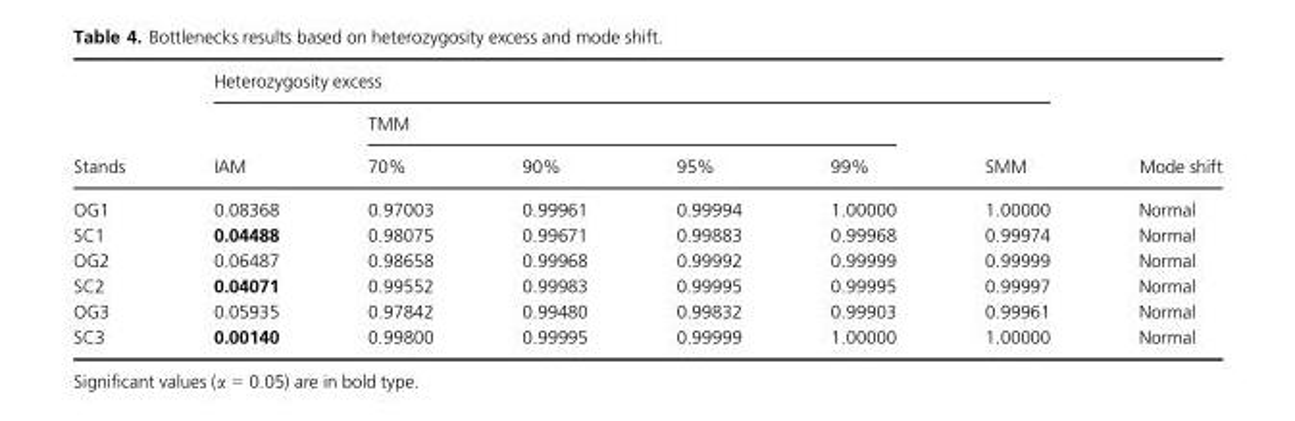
<table><thead><tr><td rowspan="3">Stands</td><td colspan="6">Heterozygosity excess</td><td rowspan="3">Mode shift</td></tr><tr><td rowspan="2">IAM</td><td colspan="4">TMM</td><td rowspan="2">SMM</td></tr><tr><td>70%</td><td>90%</td><td>95%</td><td>99%</td></tr></thead><tbody><tr><td>OG1</td><td>0.08368</td><td>0.97003</td><td>0.99961</td><td>0.99994</td><td>1.00000</td><td>1.00000</td><td>Normal</td></tr><tr><td>SC1</td><td>0.04488</td><td>0.98075</td><td>0.99671</td><td>0.99883</td><td>0.99968</td><td>0.99974</td><td>Normal</td></tr><tr><td>OG2</td><td>0.06487</td><td>0.98658</td><td>0.99968</td><td>0.99992</td><td>0.99999</td><td>0.99999</td><td>Normal</td></tr><tr><td>SC2</td><td>0.04071</td><td>0.99552</td><td>0.99983</td><td>0.99995</td><td>0.99995</td><td>0.99997</td><td>Normal</td></tr><tr><td>OG3</td><td>0.05935</td><td>0.97842</td><td>0.99480</td><td>0.99832</td><td>0.99903</td><td>0.99961</td><td>Normal</td></tr><tr><td>SC3</td><td>0.00140</td><td>0.99800</td><td>0.99995</td><td>0.99999</td><td>1.00000</td><td>1.00000</td><td>Normal</td></tr></tbody></table>